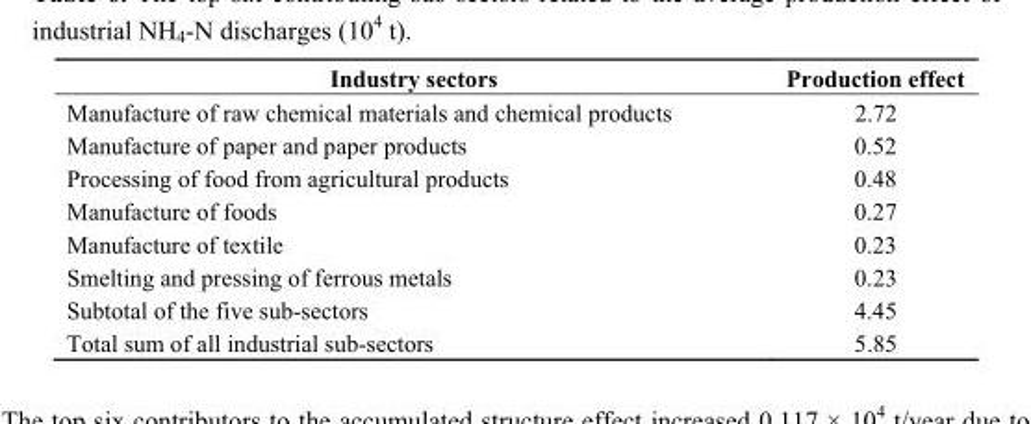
<table><thead><tr><td>Industry sectors</td><td>Production effect</td></tr></thead><tbody><tr><td>Manufacture of raw chemical materials and chemical products</td><td>2.72</td></tr><tr><td>Manufacture of paper and paper products</td><td>0.52</td></tr><tr><td>Processing of food from agricultural products</td><td>0.48</td></tr><tr><td>Manufacture of foods</td><td>0.27</td></tr><tr><td>Manufacture of textile</td><td>0.23</td></tr><tr><td>Smelting and pressing of ferrous metals</td><td>0.23</td></tr><tr><td>Subtotal of the five sub-sectors</td><td>4.45</td></tr><tr><td>Total sum of all industrial sub-sectors</td><td>5.85</td></tr></tbody></table>